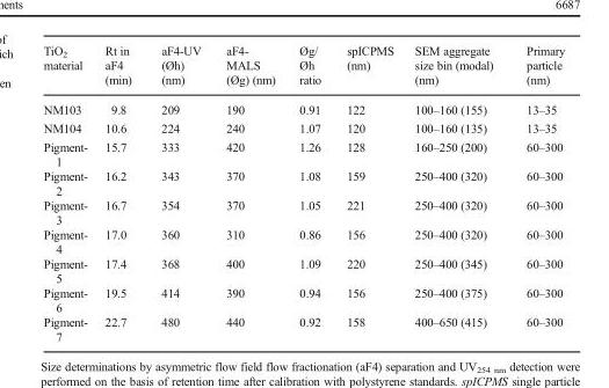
<table><thead><tr><td>TiO<sub>2</sub> material</td><td>Rt in aF4 (min)</td><td>aF4-UV (Øh) (nm)</td><td>aF4- MALS (Øg) (nm)</td><td>Øg/ Øh ratio</td><td>spICPMS (nm)</td><td>SEM aggregate size bin (modal) (nm)</td><td>Primary particle (nm)</td></tr></thead><tbody><tr><td>NM103</td><td>9.8</td><td>209</td><td>190</td><td>0.91</td><td>122</td><td>100–160 (155)</td><td>13–35</td></tr><tr><td>NM104</td><td>10.6</td><td>224</td><td>240</td><td>1.07</td><td>120</td><td>100–160 (135)</td><td>13–35</td></tr><tr><td>Pigment- 1</td><td>15.7</td><td>333</td><td>420</td><td>1.26</td><td>128</td><td>160–250 (200)</td><td>60–300</td></tr><tr><td>Pigment- 2</td><td>16.2</td><td>343</td><td>370</td><td>1.08</td><td>159</td><td>250–400 (320)</td><td>60–300</td></tr><tr><td>Pigment- 3</td><td>16.7</td><td>354</td><td>370</td><td>1.05</td><td>221</td><td>250–400 (320)</td><td>60–300</td></tr><tr><td>Pigment- 4</td><td>17.0</td><td>360</td><td>310</td><td>0.86</td><td>156</td><td>250–400 (320)</td><td>60–300</td></tr><tr><td>Pigment- 5</td><td>17.4</td><td>368</td><td>400</td><td>1.09</td><td>220</td><td>250–400 (345)</td><td>60–300</td></tr><tr><td>Pigment- 6</td><td>19.5</td><td>414</td><td>390</td><td>0.94</td><td>156</td><td>250–400 (375)</td><td>60–300</td></tr><tr><td>Pigment- 7</td><td>22.7</td><td>480</td><td>440</td><td>0.92</td><td>158</td><td>400–650 (415)</td><td>60–300</td></tr></tbody></table>